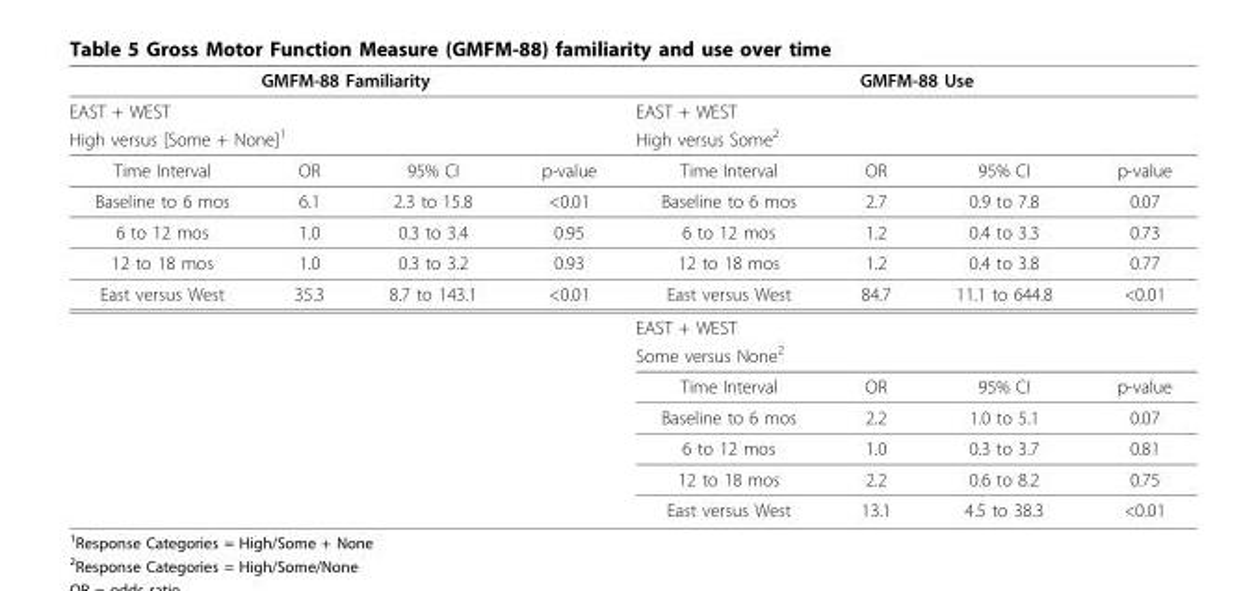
<table><thead><tr><td rowspan="3" colspan="4">GMFM-88 Familiarity EAST + WEST High versus [Some + None]<sup>1</sup></td><td rowspan="3" colspan="4">GMFM-88 Use EAST + WEST High versus Some2</td></tr><tr></tr><tr></tr><tr><td>Time Interval</td><td>OR</td><td>95% CI</td><td>p-value</td><td>Time Interval</td><td>OR</td><td>95% CI</td><td>p-value</td></tr></thead><tbody><tr><td>Baseline to 6 mos</td><td>6.1</td><td>2.3 to 15.8</td><td>&lt;0.01</td><td>Baseline to 6 mos</td><td>2.7</td><td>0.9 to 7.8</td><td>0.07</td></tr><tr><td>6 to 12 mos</td><td>1.0</td><td>0.3 to 3.4</td><td>0.95</td><td>6 to 12 mos</td><td>1.2</td><td>0.4 to 3.3</td><td>0.73</td></tr><tr><td>12 to 18 mos</td><td>1.0</td><td>0.3 to 3.2</td><td>0.93</td><td>12 to 18 mos</td><td>1.2</td><td>0.4 to 3.8</td><td>0.77</td></tr><tr><td rowspan="8">East versus West</td><td>35.3</td><td>8.7 to 143.1</td><td>&lt;0.01</td><td>East versus West</td><td>84.7</td><td>11.1 to 644.8</td><td>&lt;0.01</td></tr><tr><td></td><td></td><td></td><td colspan="4">EAST + WEST</td></tr><tr><td></td><td></td><td></td><td colspan="4">Some versus None<sup>2</sup></td></tr><tr><td></td><td></td><td></td><td>Time Interval</td><td>OR</td><td>95% CI</td><td>p-value</td></tr><tr><td></td><td></td><td></td><td>Baseline to 6 mos</td><td>2.2</td><td>1.0 to 5.1</td><td>0.07</td></tr><tr><td></td><td></td><td></td><td>6 to 12 mos</td><td>1.0</td><td>0.3 to 3.7</td><td>0.81</td></tr><tr><td></td><td></td><td></td><td>12 to 18 mos</td><td>2.2</td><td>0.6 to 8.2</td><td>0.75</td></tr><tr><td></td><td></td><td></td><td>East versus West</td><td>13.1</td><td>4.5 to 38.3</td><td>&lt;0.01</td></tr></tbody></table>